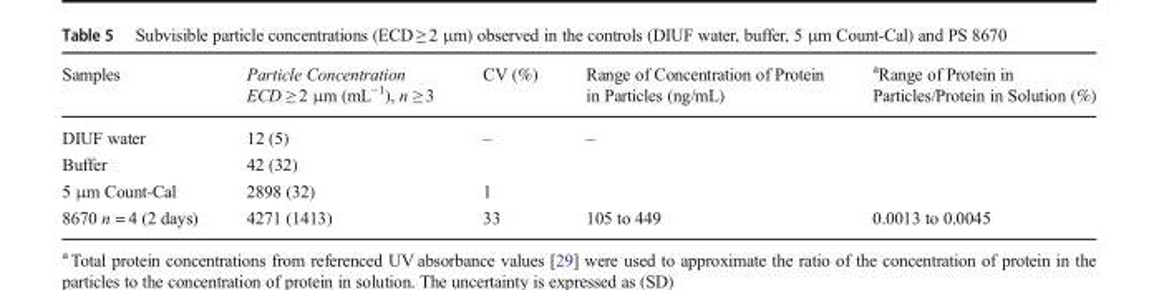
<table><thead><tr><td>Samples</td><td>Particle Concentration ECD ≥ 2 μm (mL<sup>−1</sup>), n ≥ 3</td><td>CV (%)</td><td>Range of Concentration of Protein in Particles (ng/mL)</td><td><sup>a</sup>Range of Protein in Particles/Protein in Solution (%)</td></tr></thead><tbody><tr><td>DIUF water</td><td>12 (5)</td><td>–</td><td>–</td><td></td></tr><tr><td>Buffer</td><td>42 (32)</td><td></td><td></td><td></td></tr><tr><td>5 μm Count-Cal</td><td>2898 (32)</td><td>1</td><td></td><td></td></tr><tr><td>8670 n = 4 (2 days)</td><td>4271 (1413)</td><td>33</td><td>105 to 449</td><td>0.0013 to 0.0045</td></tr></tbody></table>